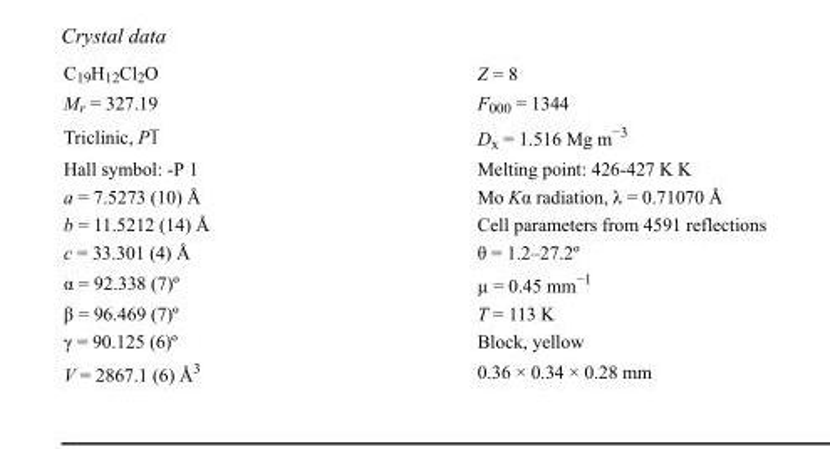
<table><tbody><tr><td>C<sub>19</sub>H<sub>12</sub>Cl<sub>2</sub>O</td><td>Z = 8</td></tr><tr><td>M<sub>r</sub> = 327.19</td><td>F000 = 1344</td></tr><tr><td>Triclinic, P1</td><td>D<sub>x</sub> = 1.516 Mg m<sup>−3</sup></td></tr><tr><td>Hall symbol: -P 1</td><td>Melting point: 426-427 K K</td></tr><tr><td>a = 7.5273 (10) Å</td><td>Mo Kα radiation, λ = 0.71070 Å</td></tr><tr><td>b = 11.5212 (14) Å</td><td>Cell parameters from 4591 reflections</td></tr><tr><td>c = 33.301 (4) Å</td><td>θ = 1.2–27.2º</td></tr><tr><td>α = 92.338 (7)º</td><td>µ = 0.45 mm<sup>−1</sup></td></tr><tr><td>β = 96.469 (7)º</td><td>T = 113 K</td></tr><tr><td>γ = 90.125 (6)º</td><td>Block, yellow</td></tr><tr><td>V = 2867.1 (6) Å<sup>3</sup></td><td>0.36 × 0.34 × 0.28 mm</td></tr></tbody></table>